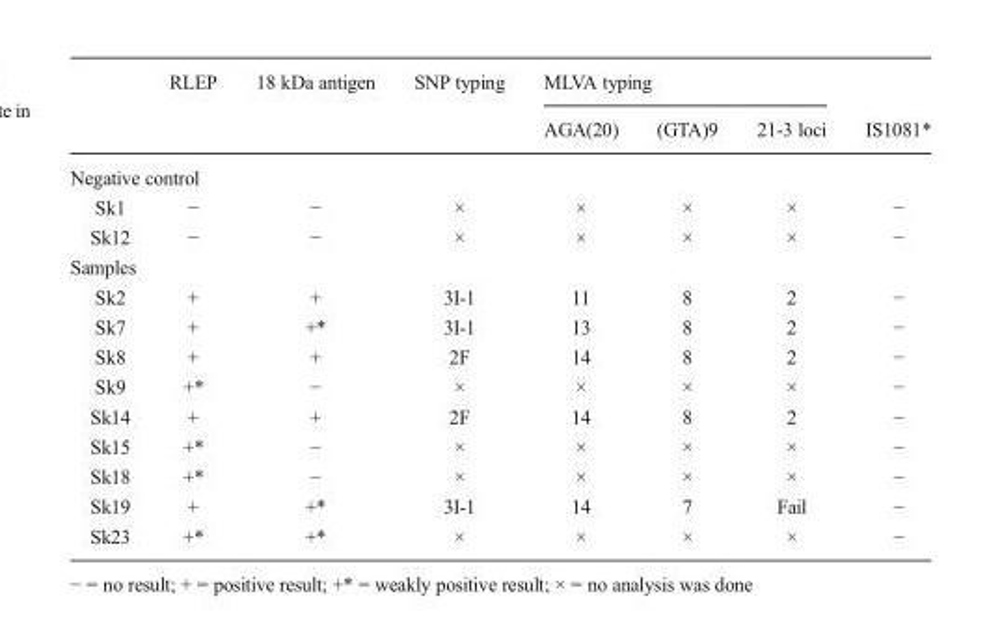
<table><thead><tr><td rowspan="2"></td><td rowspan="2">RLEP</td><td rowspan="2">18 kDa antigen</td><td rowspan="2">SNP typing</td><td colspan="3">MLVA typing</td><td rowspan="2">IS1081*</td></tr><tr><td>AGA(20)</td><td>(GTA)9</td><td>21-3 loci</td></tr></thead><tbody><tr><td colspan="8">Negative control</td></tr><tr><td>Sk1</td><td>−</td><td>−</td><td>×</td><td>×</td><td>×</td><td>×</td><td>−</td></tr><tr><td>Sk12</td><td>−</td><td>−</td><td>×</td><td>×</td><td>×</td><td>×</td><td>−</td></tr><tr><td colspan="8">Samples</td></tr><tr><td>Sk2</td><td>+</td><td>+</td><td>3I-1</td><td>11</td><td>8</td><td>2</td><td>−</td></tr><tr><td>Sk7</td><td>+</td><td>+*</td><td>3I-1</td><td>13</td><td>8</td><td>2</td><td>−</td></tr><tr><td>Sk8</td><td>+</td><td>+</td><td>2F</td><td>14</td><td>8</td><td>2</td><td>−</td></tr><tr><td>Sk9</td><td>+*</td><td>−</td><td>×</td><td>×</td><td>×</td><td>×</td><td>−</td></tr><tr><td>Sk14</td><td>+</td><td>+</td><td>2F</td><td>14</td><td>8</td><td>2</td><td>−</td></tr><tr><td>Sk15</td><td>+*</td><td>−</td><td>×</td><td>×</td><td>×</td><td>×</td><td>−</td></tr><tr><td>Sk18</td><td>+*</td><td>−</td><td>×</td><td>×</td><td>×</td><td>×</td><td>−</td></tr><tr><td>Sk19</td><td>+</td><td>+*</td><td>3I-1</td><td>14</td><td>7</td><td>Fail</td><td>−</td></tr><tr><td>Sk23</td><td>+*</td><td>+*</td><td>×</td><td>×</td><td>×</td><td>×</td><td>−</td></tr></tbody></table>